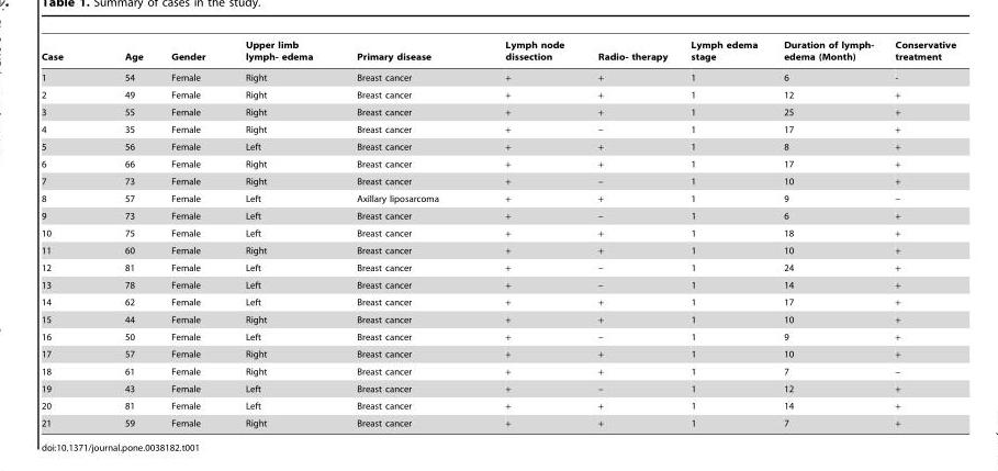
<table><thead><tr><td>Case</td><td>Age</td><td>Gender</td><td>Upper limb lymph- edema</td><td>Primary disease</td><td>Lymph node dissection</td><td>Radio- therapy</td><td>Lymph edema stage</td><td>Duration of lymph- edema (Month)</td><td>Conservative treatment</td></tr></thead><tbody><tr><td>1</td><td>54</td><td>Female</td><td>Right</td><td>Breast cancer</td><td>+</td><td>+</td><td>1</td><td>6</td><td>-</td></tr><tr><td>2</td><td>49</td><td>Female</td><td>Right</td><td>Breast cancer</td><td>+</td><td>+</td><td>1</td><td>12</td><td>+</td></tr><tr><td>3</td><td>55</td><td>Female</td><td>Right</td><td>Breast cancer</td><td>+</td><td>+</td><td>1</td><td>25</td><td>+</td></tr><tr><td>4</td><td>35</td><td>Female</td><td>Right</td><td>Breast cancer</td><td>+</td><td>–</td><td>1</td><td>17</td><td>+</td></tr><tr><td>5</td><td>56</td><td>Female</td><td>Left</td><td>Breast cancer</td><td>+</td><td>+</td><td>1</td><td>8</td><td>+</td></tr><tr><td>6</td><td>66</td><td>Female</td><td>Right</td><td>Breast cancer</td><td>+</td><td>+</td><td>1</td><td>17</td><td>+</td></tr><tr><td>7</td><td>73</td><td>Female</td><td>Right</td><td>Breast cancer</td><td>+</td><td>–</td><td>1</td><td>10</td><td>+</td></tr><tr><td>8</td><td>57</td><td>Female</td><td>Left</td><td>Axillary liposarcoma</td><td>+</td><td>+</td><td>1</td><td>9</td><td>–</td></tr><tr><td>9</td><td>73</td><td>Female</td><td>Left</td><td>Breast cancer</td><td>+</td><td>–</td><td>1</td><td>6</td><td>+</td></tr><tr><td>10</td><td>75</td><td>Female</td><td>Left</td><td>Breast cancer</td><td>+</td><td>+</td><td>1</td><td>18</td><td>+</td></tr><tr><td>11</td><td>60</td><td>Female</td><td>Right</td><td>Breast cancer</td><td>+</td><td>+</td><td>1</td><td>10</td><td>+</td></tr><tr><td>12</td><td>81</td><td>Female</td><td>Left</td><td>Breast cancer</td><td>+</td><td>–</td><td>1</td><td>24</td><td>+</td></tr><tr><td>13</td><td>78</td><td>Female</td><td>Left</td><td>Breast cancer</td><td>+</td><td>–</td><td>1</td><td>14</td><td>+</td></tr><tr><td>14</td><td>62</td><td>Female</td><td>Left</td><td>Breast cancer</td><td>+</td><td>+</td><td>1</td><td>17</td><td>+</td></tr><tr><td>15</td><td>44</td><td>Female</td><td>Right</td><td>Breast cancer</td><td>+</td><td>+</td><td>1</td><td>10</td><td>+</td></tr><tr><td>16</td><td>50</td><td>Female</td><td>Left</td><td>Breast cancer</td><td>+</td><td>–</td><td>1</td><td>9</td><td>+</td></tr><tr><td>17</td><td>57</td><td>Female</td><td>Right</td><td>Breast cancer</td><td>+</td><td>+</td><td>1</td><td>10</td><td>+</td></tr><tr><td>18</td><td>61</td><td>Female</td><td>Right</td><td>Breast cancer</td><td>+</td><td>+</td><td>1</td><td>7</td><td>–</td></tr><tr><td>19</td><td>43</td><td>Female</td><td>Left</td><td>Breast cancer</td><td>+</td><td>–</td><td>1</td><td>12</td><td>+</td></tr><tr><td>20</td><td>81</td><td>Female</td><td>Left</td><td>Breast cancer</td><td>+</td><td>+</td><td>1</td><td>14</td><td>+</td></tr><tr><td>21</td><td>59</td><td>Female</td><td>Right</td><td>Breast cancer</td><td>+</td><td>+</td><td>1</td><td>7</td><td>+</td></tr></tbody></table>